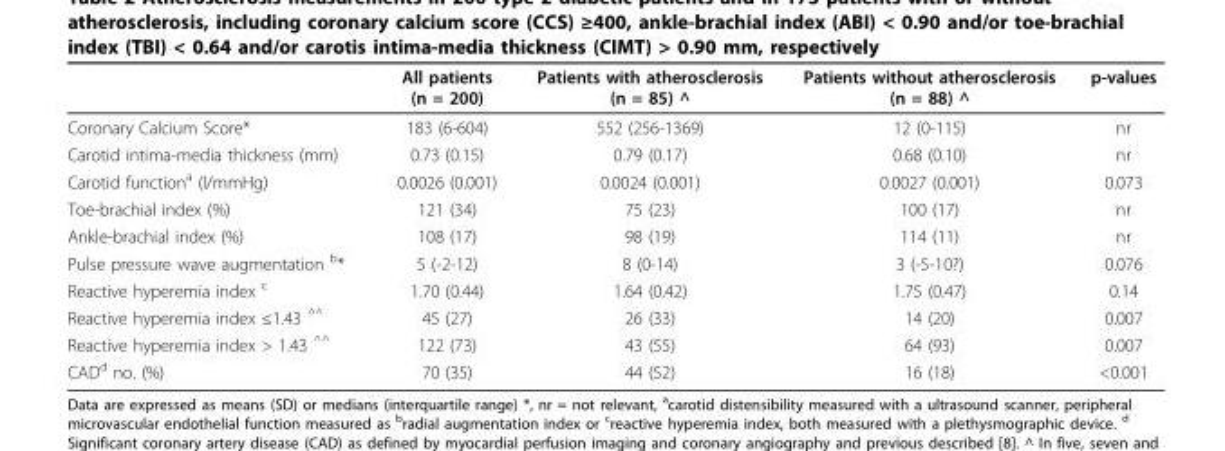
<table><thead><tr><td></td><td>All patients (n = 200)</td><td>Patients with atherosclerosis (n = 85) ^</td><td>Patients without atherosclerosis (n = 88) ^</td><td>p-values</td></tr></thead><tbody><tr><td>Coronary Calcium Score*</td><td>183 (6-604)</td><td>552 (256-1369)</td><td>12 (0-115)</td><td>nr</td></tr><tr><td>Carotid intima-media thickness (mm)</td><td>0.73 (0.15)</td><td>0.79 (0.17)</td><td>0.68 (0.10)</td><td>nr</td></tr><tr><td>Carotid function<sup>a</sup> (l/mmHg)</td><td>0.0026 (0.001)</td><td>0.0024 (0.001)</td><td>0.0027 (0.001)</td><td>0.073</td></tr><tr><td>Toe-brachial index (%)</td><td>121 (34)</td><td>75 (23)</td><td>100 (17)</td><td>nr</td></tr><tr><td>Ankle-brachial index (%)</td><td>108 (17)</td><td>98 (19)</td><td>114 (11)</td><td>nr</td></tr><tr><td>Pulse pressure wave augmentation <sup>b</sup>*</td><td>5 (-2-12)</td><td>8 (0-14)</td><td>3 (-5-10?)</td><td>0.076</td></tr><tr><td>Reactive hyperemia index <sup>c</sup></td><td>1.70 (0.44)</td><td>1.64 (0.42)</td><td>1.75 (0.47)</td><td>0.14</td></tr><tr><td>Reactive hyperemia index ≤1.43 ^^</td><td>45 (27)</td><td>26 (33)</td><td>14 (20)</td><td>0.007</td></tr><tr><td>Reactive hyperemia index &gt; 1.43 ^^</td><td>122 (73)</td><td>43 (55)</td><td>64 (93)</td><td>0.007</td></tr><tr><td>CAD<sup>d</sup> no. (%)</td><td>70 (35)</td><td>44 (52)</td><td>16 (18)</td><td>&lt;0.001</td></tr></tbody></table>